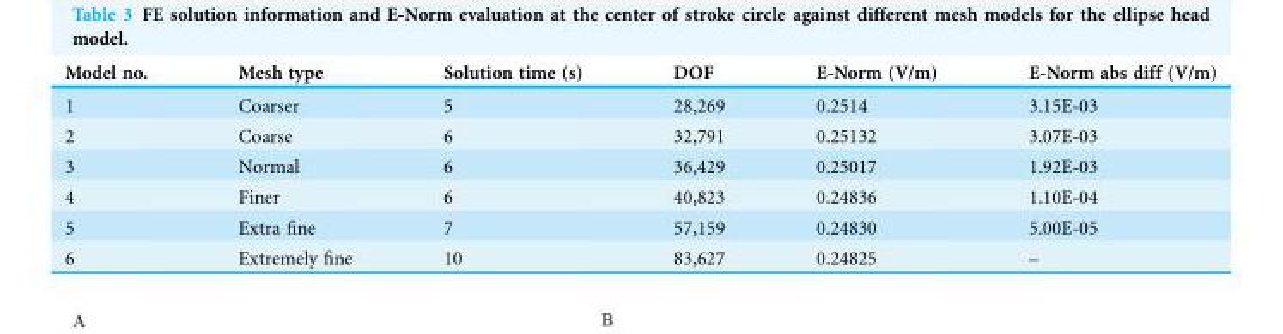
<table><thead><tr><td>Model no.</td><td>Mesh type</td><td>Solution time (s)</td><td>DOF</td><td>E-Norm (V/m)</td><td>E-Norm abs diff (V/m)</td></tr></thead><tbody><tr><td>1</td><td>Coarser</td><td>5</td><td>28,269</td><td>0.2514</td><td>3.15E-03</td></tr><tr><td>2</td><td>Coarse</td><td>6</td><td>32,791</td><td>0.25132</td><td>3.07E-03</td></tr><tr><td>3</td><td>Normal</td><td>6</td><td>36,429</td><td>0.25017</td><td>1.92E-03</td></tr><tr><td>4</td><td>Finer</td><td>6</td><td>40,823</td><td>0.24836</td><td>1.10E-04</td></tr><tr><td>5</td><td>Extra fine</td><td>7</td><td>57,159</td><td>0.24830</td><td>5.00E-05</td></tr><tr><td>6</td><td>Extremely fine</td><td>10</td><td>83,627</td><td>0.24825</td><td>–</td></tr></tbody></table>